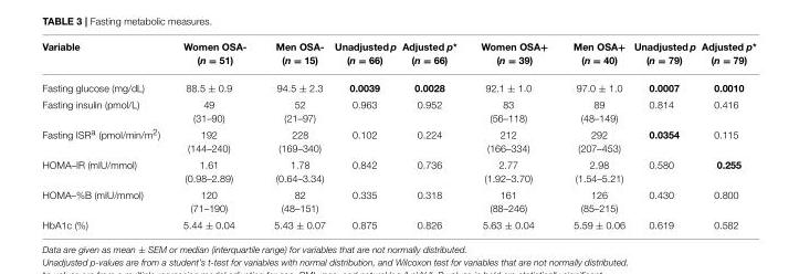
<table><thead><tr><td>Variable</td><td>Women OSA- (n = 51)</td><td>Men OSA- (n = 15)</td><td>Unadjusted p (n = 66)</td><td>Adjusted p* (n = 66)</td><td>Women OSA+ (n = 39)</td><td>Men OSA+ (n = 40)</td><td>Unadjusted p (n = 79)</td><td>Adjusted p* (n = 79)</td></tr></thead><tbody><tr><td>Fasting glucose (mg/dL)</td><td>88.5 ± 0.9</td><td>94.5 ± 2.3</td><td>0.0039</td><td>0.0028</td><td>92.1 ± 1.0</td><td>97.0 ± 1.0</td><td>0.0007</td><td>0.0010</td></tr><tr><td>Fasting insulin (pmol/L)</td><td>49 (31–90)</td><td>52 (21–97)</td><td>0.963</td><td>0.952</td><td>83 (56–118)</td><td>89 (48–149)</td><td>0.814</td><td>0.416</td></tr><tr><td>Fasting ISR<sup>a</sup> (pmol/min/m<sup>2</sup>)</td><td>192 (144–240)</td><td>228 (169–340)</td><td>0.102</td><td>0.224</td><td>212 (166–334)</td><td>292 (207–453)</td><td>0.0354</td><td>0.115</td></tr><tr><td>HOMA–IR (mIU/mmol)</td><td>1.61 (0.98–2.89)</td><td>1.78 (0.64–3.34)</td><td>0.842</td><td>0.736</td><td>2.77 (1.92–3.70)</td><td>2.98 (1.54–5.21)</td><td>0.580</td><td>0.255</td></tr><tr><td>HOMA–%B (mIU/mmol)</td><td>120 (71–190)</td><td>82 (48–151)</td><td>0.335</td><td>0.318</td><td>161 (88–246)</td><td>126 (85–215)</td><td>0.430</td><td>0.800</td></tr><tr><td>HbA1c (%)</td><td>5.44 ± 0.04</td><td>5.43 ± 0.07</td><td>0.875</td><td>0.826</td><td>5.63 ± 0.04</td><td>5.59 ± 0.06</td><td>0.619</td><td>0.582</td></tr></tbody></table>